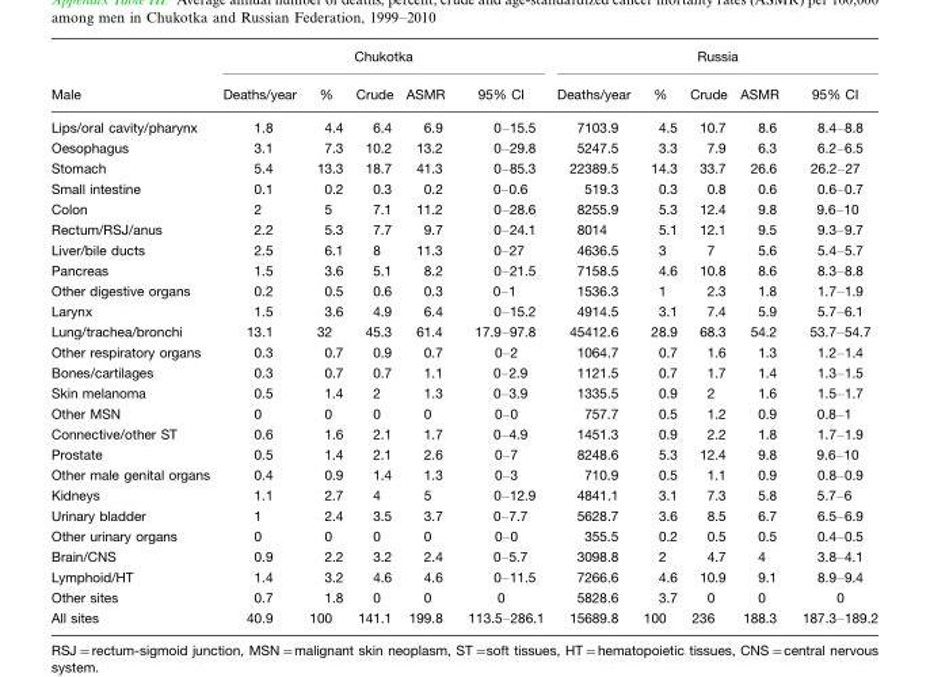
<table><thead><tr><td rowspan="2">Male</td><td colspan="5">Chukotka</td><td colspan="5">Russia</td></tr><tr><td>Deaths/year</td><td>%</td><td>Crude</td><td>ASMR</td><td>95% CI</td><td>Deaths/year</td><td>%</td><td>Crude</td><td>ASMR</td><td>95% CI</td></tr></thead><tbody><tr><td>Lips/oral cavity/pharynx</td><td>1.8</td><td>4.4</td><td>6.4</td><td>6.9</td><td>0–15.5</td><td>7103.9</td><td>4.5</td><td>10.7</td><td>8.6</td><td>8.4–8.8</td></tr><tr><td>Oesophagus</td><td>3.1</td><td>7.3</td><td>10.2</td><td>13.2</td><td>0–29.8</td><td>5247.5</td><td>3.3</td><td>7.9</td><td>6.3</td><td>6.2–6.5</td></tr><tr><td>Stomach</td><td>5.4</td><td>13.3</td><td>18.7</td><td>41.3</td><td>0–85.3</td><td>22389.5</td><td>14.3</td><td>33.7</td><td>26.6</td><td>26.2–27</td></tr><tr><td>Small intestine</td><td>0.1</td><td>0.2</td><td>0.3</td><td>0.2</td><td>0–0.6</td><td>519.3</td><td>0.3</td><td>0.8</td><td>0.6</td><td>0.6–0.7</td></tr><tr><td>Colon</td><td>2</td><td>5</td><td>7.1</td><td>11.2</td><td>0–28.6</td><td>8255.9</td><td>5.3</td><td>12.4</td><td>9.8</td><td>9.6–10</td></tr><tr><td>Rectum/RSJ/anus</td><td>2.2</td><td>5.3</td><td>7.7</td><td>9.7</td><td>0–24.1</td><td>8014</td><td>5.1</td><td>12.1</td><td>9.5</td><td>9.3–9.7</td></tr><tr><td>Liver/bile ducts</td><td>2.5</td><td>6.1</td><td>8</td><td>11.3</td><td>0–27</td><td>4636.5</td><td>3</td><td>7</td><td>5.6</td><td>5.4–5.7</td></tr><tr><td>Pancreas</td><td>1.5</td><td>3.6</td><td>5.1</td><td>8.2</td><td>0–21.5</td><td>7158.5</td><td>4.6</td><td>10.8</td><td>8.6</td><td>8.3–8.8</td></tr><tr><td>Other digestive organs</td><td>0.2</td><td>0.5</td><td>0.6</td><td>0.3</td><td>0–1</td><td>1536.3</td><td>1</td><td>2.3</td><td>1.8</td><td>1.7–1.9</td></tr><tr><td>Larynx</td><td>1.5</td><td>3.6</td><td>4.9</td><td>6.4</td><td>0–15.2</td><td>4914.5</td><td>3.1</td><td>7.4</td><td>5.9</td><td>5.7–6.1</td></tr><tr><td>Lung/trachea/bronchi</td><td>13.1</td><td>32</td><td>45.3</td><td>61.4</td><td>17.9–97.8</td><td>45412.6</td><td>28.9</td><td>68.3</td><td>54.2</td><td>53.7–54.7</td></tr><tr><td>Other respiratory organs</td><td>0.3</td><td>0.7</td><td>0.9</td><td>0.7</td><td>0–2</td><td>1064.7</td><td>0.7</td><td>1.6</td><td>1.3</td><td>1.2–1.4</td></tr><tr><td>Bones/cartilages</td><td>0.3</td><td>0.7</td><td>0.7</td><td>1.1</td><td>0–2.9</td><td>1121.5</td><td>0.7</td><td>1.7</td><td>1.4</td><td>1.3–1.5</td></tr><tr><td>Skin melanoma</td><td>0.5</td><td>1.4</td><td>2</td><td>1.3</td><td>0–3.9</td><td>1335.5</td><td>0.9</td><td>2</td><td>1.6</td><td>1.5–1.7</td></tr><tr><td>Other MSN</td><td>0</td><td>0</td><td>0</td><td>0</td><td>0–0</td><td>757.7</td><td>0.5</td><td>1.2</td><td>0.9</td><td>0.8–1</td></tr><tr><td>Connective/other ST</td><td>0.6</td><td>1.6</td><td>2.1</td><td>1.7</td><td>0–4.9</td><td>1451.3</td><td>0.9</td><td>2.2</td><td>1.8</td><td>1.7–1.9</td></tr><tr><td>Prostate</td><td>0.5</td><td>1.4</td><td>2.1</td><td>2.6</td><td>0–7</td><td>8248.6</td><td>5.3</td><td>12.4</td><td>9.8</td><td>9.6–10</td></tr><tr><td>Other male genital organs</td><td>0.4</td><td>0.9</td><td>1.4</td><td>1.3</td><td>0–3</td><td>710.9</td><td>0.5</td><td>1.1</td><td>0.9</td><td>0.8–0.9</td></tr><tr><td>Kidneys</td><td>1.1</td><td>2.7</td><td>4</td><td>5</td><td>0–12.9</td><td>4841.1</td><td>3.1</td><td>7.3</td><td>5.8</td><td>5.7–6</td></tr><tr><td>Urinary bladder</td><td>1</td><td>2.4</td><td>3.5</td><td>3.7</td><td>0–7.7</td><td>5628.7</td><td>3.6</td><td>8.5</td><td>6.7</td><td>6.5–6.9</td></tr><tr><td>Other urinary organs</td><td>0</td><td>0</td><td>0</td><td>0</td><td>0–0</td><td>355.5</td><td>0.2</td><td>0.5</td><td>0.5</td><td>0.4–0.5</td></tr><tr><td>Brain/CNS</td><td>0.9</td><td>2.2</td><td>3.2</td><td>2.4</td><td>0–5.7</td><td>3098.8</td><td>2</td><td>4.7</td><td>4</td><td>3.8–4.1</td></tr><tr><td>Lymphoid/HT</td><td>1.4</td><td>3.2</td><td>4.6</td><td>4.6</td><td>0–11.5</td><td>7266.6</td><td>4.6</td><td>10.9</td><td>9.1</td><td>8.9–9.4</td></tr><tr><td>Other sites</td><td>0.7</td><td>1.8</td><td>0</td><td>0</td><td>0</td><td>5828.6</td><td>3.7</td><td>0</td><td>0</td><td>0</td></tr><tr><td>All sites</td><td>40.9</td><td>100</td><td>141.1</td><td>199.8</td><td>113.5–286.1</td><td>15689.8</td><td>100</td><td>236</td><td>188.3</td><td>187.3–189.2</td></tr></tbody></table>